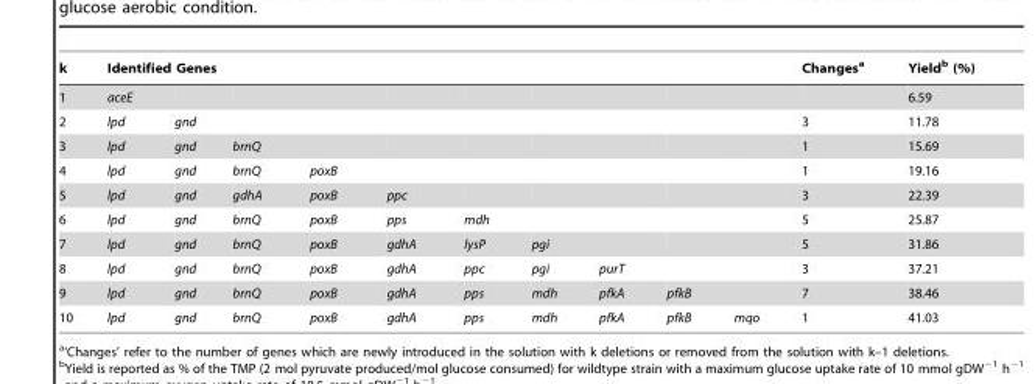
<table><thead><tr><td rowspan="2">k 1</td><td colspan="10">Identified Genes</td><td rowspan="2">Changes<sup>a</sup></td><td rowspan="2">Yield<sup>b</sup> (%) 6.59</td></tr><tr><td>aceE</td><td></td><td></td><td></td><td></td><td></td><td></td><td></td><td></td><td></td></tr></thead><tbody><tr><td>2</td><td>lpd</td><td>gnd</td><td></td><td></td><td></td><td></td><td></td><td></td><td></td><td></td><td>3</td><td>11.78</td></tr><tr><td>3</td><td>lpd</td><td>gnd</td><td>brnQ</td><td></td><td></td><td></td><td></td><td></td><td></td><td></td><td>1</td><td>15.69</td></tr><tr><td>4</td><td>lpd</td><td>gnd</td><td>brnQ</td><td>poxB</td><td></td><td></td><td></td><td></td><td></td><td></td><td>1</td><td>19.16</td></tr><tr><td>5</td><td>lpd</td><td>gnd</td><td>gdhA</td><td>poxB</td><td>ppc</td><td></td><td></td><td></td><td></td><td></td><td>3</td><td>22.39</td></tr><tr><td>6</td><td>lpd</td><td>gnd</td><td>brnQ</td><td>poxB</td><td>pps</td><td>mdh</td><td></td><td></td><td></td><td></td><td>5</td><td>25.87</td></tr><tr><td>7</td><td>lpd</td><td>gnd</td><td>brnQ</td><td>poxB</td><td>gdhA</td><td>lysP</td><td>pgi</td><td></td><td></td><td></td><td>5</td><td>31.86</td></tr><tr><td>8</td><td>lpd</td><td>gnd</td><td>brnQ</td><td>poxB</td><td>gdhA</td><td>ppc</td><td>pgi</td><td>purT</td><td></td><td></td><td>3</td><td>37.21</td></tr><tr><td>9</td><td>lpd</td><td>gnd</td><td>brnQ</td><td>poxB</td><td>gdhA</td><td>pps</td><td>mdh</td><td>pfkA</td><td>pfkB</td><td></td><td>7</td><td>38.46</td></tr><tr><td>10</td><td>lpd</td><td>gnd</td><td>brnQ</td><td>poxB</td><td>gdhA</td><td>pps</td><td>mdh</td><td>pfkA</td><td>pfkB</td><td>mqo</td><td>1</td><td>41.03</td></tr></tbody></table>